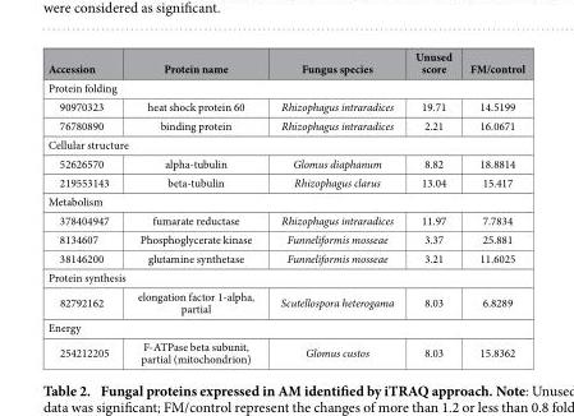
<table><thead><tr><td>Accession</td><td>Protein name</td><td>Fungus species</td><td>Unused score</td><td>FM/control</td></tr></thead><tbody><tr><td colspan="5">Protein folding</td></tr><tr><td>90970323</td><td>heat shock protein 60</td><td>Rhizophagus intraradices</td><td>19.71</td><td>14.5199</td></tr><tr><td>76780890</td><td>binding protein</td><td>Rhizophagus intraradices</td><td>2.21</td><td>16.0671</td></tr><tr><td colspan="5">Cellular structure</td></tr><tr><td>52626570</td><td>alpha-tubulin</td><td>Glomus diaphanum</td><td>8.82</td><td>18.8814</td></tr><tr><td>219553143</td><td>beta-tubulin</td><td>Rhizophagus clarus</td><td>13.04</td><td>15.417</td></tr><tr><td colspan="5">Metabolism</td></tr><tr><td>378404947</td><td>fumarate reductase</td><td>Rhizophagus intraradices</td><td>11.97</td><td>7.7834</td></tr><tr><td>8134607</td><td>Phosphoglycerate kinase</td><td>Funneliformis mosseae</td><td>3.37</td><td>25.881</td></tr><tr><td>38146200</td><td>glutamine synthetase</td><td>Funneliformis mosseae</td><td>3.21</td><td>11.6025</td></tr><tr><td colspan="5">Protein synthesis</td></tr><tr><td>82792162</td><td>elongation factor 1-alpha, partial</td><td>Scutellospora heterogama</td><td>8.03</td><td>6.8289</td></tr><tr><td colspan="5">Energy</td></tr><tr><td>254212205</td><td>F-ATPase beta subunit, partial (mitochondrion)</td><td>Glomus custos</td><td>8.03</td><td>15.8362</td></tr></tbody></table>